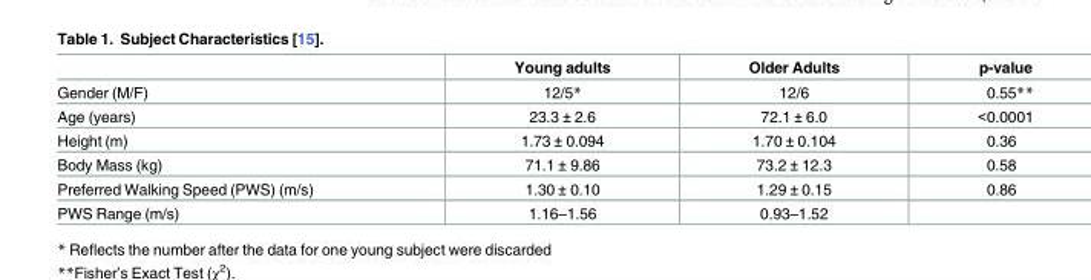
<table><thead><tr><td></td><td>Young adults</td><td>Older Adults</td><td>p-value</td></tr></thead><tbody><tr><td>Gender (M/F)</td><td>12/5*</td><td>12/6</td><td>0.55**</td></tr><tr><td>Age (years)</td><td>23.3 ± 2.6</td><td>72.1 ± 6.0</td><td>&lt;0.0001</td></tr><tr><td>Height (m)</td><td>1.73 ± 0.094</td><td>1.70 ± 0.104</td><td>0.36</td></tr><tr><td>Body Mass (kg)</td><td>71.1 ± 9.86</td><td>73.2 ± 12.3</td><td>0.58</td></tr><tr><td>Preferred Walking Speed (PWS) (m/s)</td><td>1.30 ± 0.10</td><td>1.29 ± 0.15</td><td>0.86</td></tr><tr><td>PWS Range (m/s)</td><td>1.16–1.56</td><td>0.93–1.52</td><td></td></tr></tbody></table>